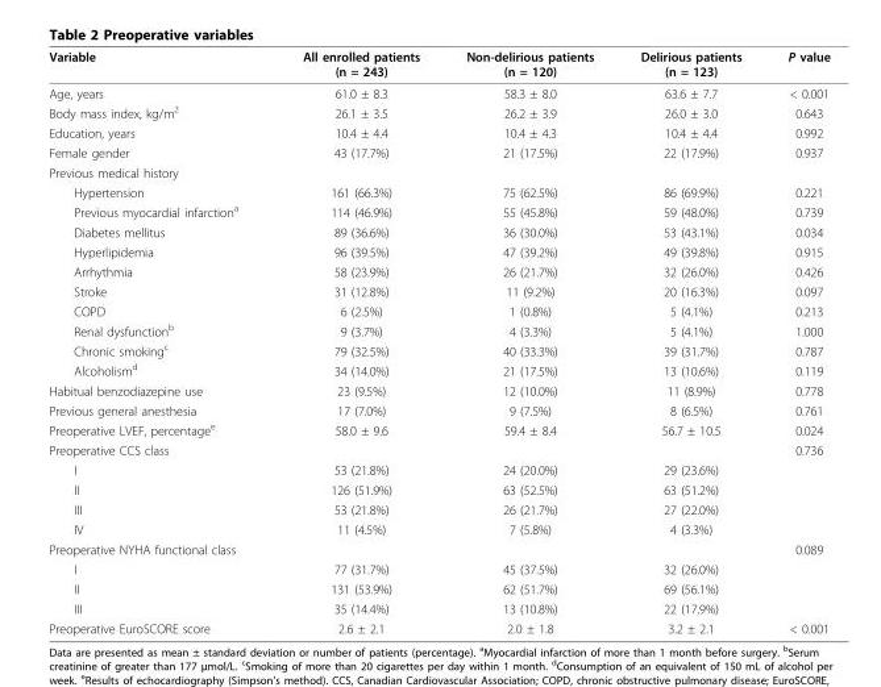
<table><thead><tr><td>Variable</td><td>All enrolled patients (n = 243)</td><td>Non-delirious patients (n = 120)</td><td>Delirious patients (n = 123)</td><td>P value</td></tr></thead><tbody><tr><td>Age, years</td><td>61.0 ± 8.3</td><td>58.3 ± 8.0</td><td>63.6 ± 7.7</td><td>&lt; 0.001</td></tr><tr><td>Body mass index, kg/m<sup>2</sup></td><td>26.1 ± 3.5</td><td>26.2 ± 3.9</td><td>26.0 ± 3.0</td><td>0.643</td></tr><tr><td>Education, years</td><td>10.4 ± 4.4</td><td>10.4 ± 4.3</td><td>10.4 ± 4.4</td><td>0.992</td></tr><tr><td>Female gender</td><td>43 (17.7%)</td><td>21 (17.5%)</td><td>22 (17.9%)</td><td>0.937</td></tr><tr><td colspan="5">Previous medical history</td></tr><tr><td>Hypertension</td><td>161 (66.3%)</td><td>75 (62.5%)</td><td>86 (69.9%)</td><td>0.221</td></tr><tr><td>Previous myocardial infarction<sup>a</sup></td><td>114 (46.9%)</td><td>55 (45.8%)</td><td>59 (48.0%)</td><td>0.739</td></tr><tr><td>Diabetes mellitus</td><td>89 (36.6%)</td><td>36 (30.0%)</td><td>53 (43.1%)</td><td>0.034</td></tr><tr><td>Hyperlipidemia</td><td>96 (39.5%)</td><td>47 (39.2%)</td><td>49 (39.8%)</td><td>0.915</td></tr><tr><td>Arrhythmia</td><td>58 (23.9%)</td><td>26 (21.7%)</td><td>32 (26.0%)</td><td>0.426</td></tr><tr><td>Stroke</td><td>31 (12.8%)</td><td>11 (9.2%)</td><td>20 (16.3%)</td><td>0.097</td></tr><tr><td>COPD</td><td>6 (2.5%)</td><td>1 (0.8%)</td><td>5 (4.1%)</td><td>0.213</td></tr><tr><td>Renal dysfunction<sup>b</sup></td><td>9 (3.7%)</td><td>4 (3.3%)</td><td>5 (4.1%)</td><td>1.000</td></tr><tr><td>Chronic smoking<sup>c</sup></td><td>79 (32.5%)</td><td>40 (33.3%)</td><td>39 (31.7%)</td><td>0.787</td></tr><tr><td>Alcoholism<sup>d</sup></td><td>34 (14.0%)</td><td>21 (17.5%)</td><td>13 (10.6%)</td><td>0.119</td></tr><tr><td>Habitual benzodiazepine use</td><td>23 (9.5%)</td><td>12 (10.0%)</td><td>11 (8.9%)</td><td>0.778</td></tr><tr><td>Previous general anesthesia</td><td>17 (7.0%)</td><td>9 (7.5%)</td><td>8 (6.5%)</td><td>0.761</td></tr><tr><td>Preoperative LVEF, percentage<sup>e</sup></td><td>58.0 ± 9.6</td><td>59.4 ± 8.4</td><td>56.7 ± 10.5</td><td>0.024</td></tr><tr><td>Preoperative CCS class</td><td></td><td></td><td></td><td>0.736</td></tr><tr><td>I</td><td>53 (21.8%)</td><td>24 (20.0%)</td><td>29 (23.6%)</td><td></td></tr><tr><td>II</td><td>126 (51.9%)</td><td>63 (52.5%)</td><td>63 (51.2%)</td><td></td></tr><tr><td>III</td><td>53 (21.8%)</td><td>26 (21.7%)</td><td>27 (22.0%)</td><td></td></tr><tr><td>IV</td><td>11 (4.5%)</td><td>7 (5.8%)</td><td>4 (3.3%)</td><td></td></tr><tr><td>Preoperative NYHA functional class</td><td></td><td></td><td></td><td>0.089</td></tr><tr><td>I</td><td>77 (31.7%)</td><td>45 (37.5%)</td><td>32 (26.0%)</td><td></td></tr><tr><td>II</td><td>131 (53.9%)</td><td>62 (51.7%)</td><td>69 (56.1%)</td><td></td></tr><tr><td>III</td><td>35 (14.4%)</td><td>13 (10.8%)</td><td>22 (17.9%)</td><td></td></tr><tr><td>Preoperative EuroSCORE score</td><td>2.6 ± 2.1</td><td>2.0 ± 1.8</td><td>3.2 ± 2.1</td><td>&lt; 0.001</td></tr></tbody></table>